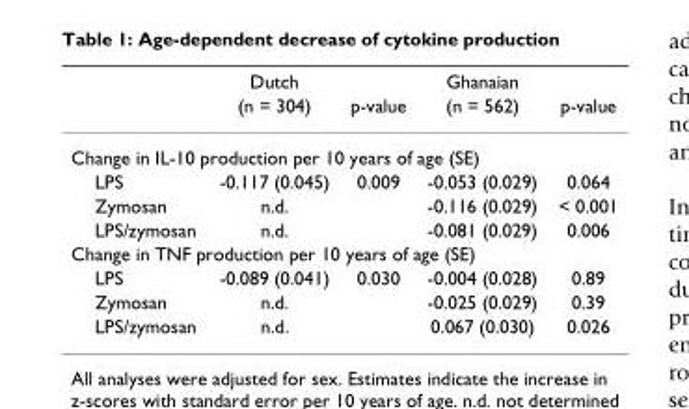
<table><thead><tr><td rowspan="2"></td><td rowspan="2">Dutch (n = 304)</td><td rowspan="2">p-value</td><td rowspan="2">Ghanaian (n = 562)</td><td rowspan="2">p-value</td></tr><tr></tr></thead><tbody><tr><td colspan="5">Change in IL-10 production per 10 years of age (SE)</td></tr><tr><td>LPS</td><td>-0.117 (0.045)</td><td>0.009</td><td>-0.053 (0.029)</td><td>0.064</td></tr><tr><td>Zymosan</td><td>n.d.</td><td></td><td>-0.116 (0.029)</td><td>&lt; 0.001</td></tr><tr><td>LPS/zymosan</td><td>n.d.</td><td></td><td>-0.081 (0.029)</td><td>0.006</td></tr><tr><td colspan="5">Change in TNF production per 10 years of age (SE)</td></tr><tr><td>LPS</td><td>-0.089 (0.041)</td><td>0.030</td><td>-0.004 (0.028)</td><td>0.89</td></tr><tr><td>Zymosan</td><td>n.d.</td><td></td><td>-0.025 (0.029)</td><td>0.39</td></tr><tr><td>LPS/zymosan</td><td>n.d.</td><td></td><td>0.067 (0.030)</td><td>0.026</td></tr></tbody></table>